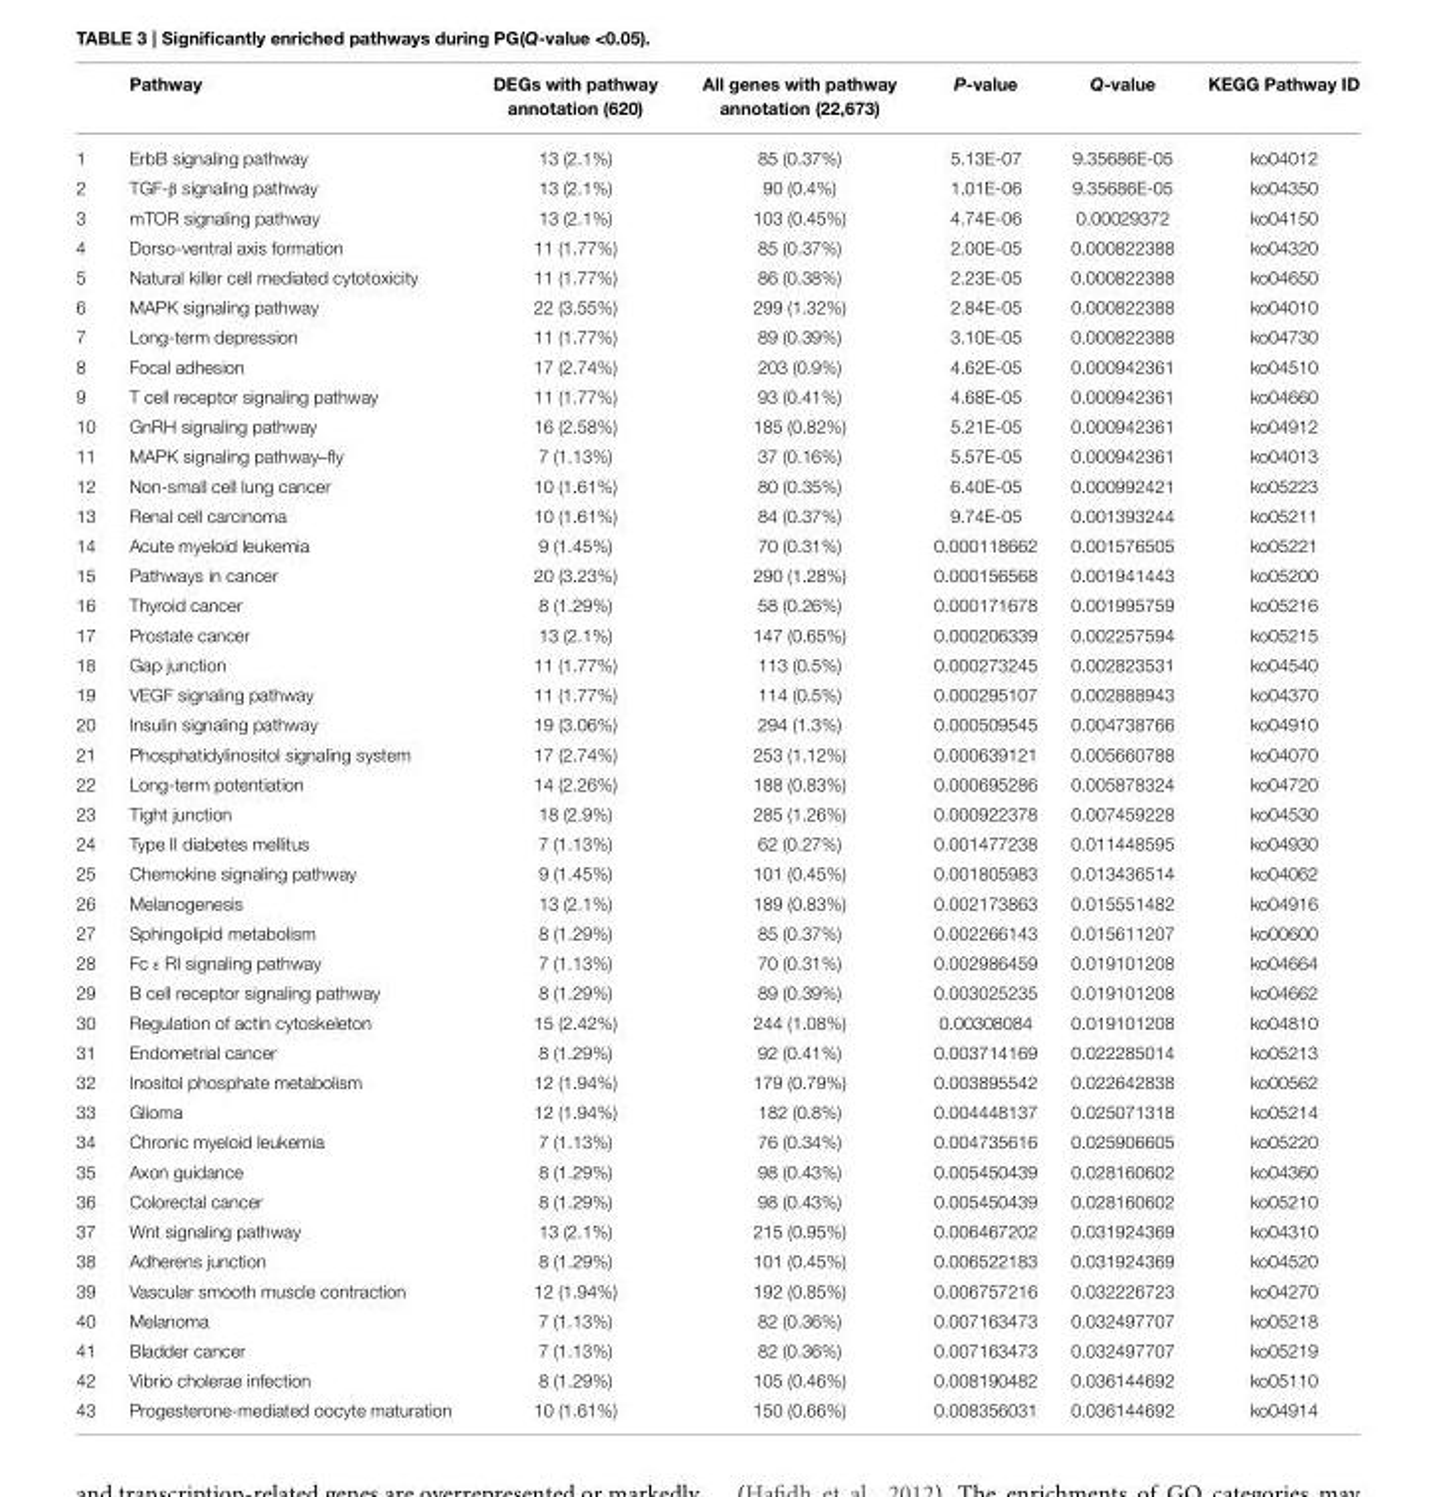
<table><thead><tr><td></td><td>Pathway</td><td>DEGs with pathway annotation (620)</td><td>All genes with pathway annotation (22,673)</td><td>P-value</td><td>Q-value</td><td>KEGG Pathway ID</td></tr></thead><tbody><tr><td>1</td><td>ErbB signaling pathway</td><td>13 (2.1%)</td><td>85 (0.37%)</td><td>5.13E-07</td><td>9.35686E-05</td><td>ko04012</td></tr><tr><td>2</td><td>TGF-β signaling pathway</td><td>13 (2.1%)</td><td>90 (0.4%)</td><td>1.01E-06</td><td>9.35686E-05</td><td>ko04350</td></tr><tr><td>3</td><td>mTOR signaling pathway</td><td>13 (2.1%)</td><td>103 (0.45%)</td><td>4.74E-06</td><td>0.00029372</td><td>ko04150</td></tr><tr><td>4</td><td>Dorso-ventral axis formation</td><td>11 (1.77%)</td><td>85 (0.37%)</td><td>2.00E-05</td><td>0.000822388</td><td>ko04320</td></tr><tr><td>5</td><td>Natural killer cell mediated cytotoxicity</td><td>11 (1.77%)</td><td>86 (0.38%)</td><td>2.23E-05</td><td>0.000822388</td><td>ko04650</td></tr><tr><td>6</td><td>MAPK signaling pathway</td><td>22 (3.55%)</td><td>299 (1.32%)</td><td>2.84E-05</td><td>0.000822388</td><td>ko04010</td></tr><tr><td>7</td><td>Long-term depression</td><td>11 (1.77%)</td><td>89 (0.39%)</td><td>3.10E-05</td><td>0.000822388</td><td>ko04730</td></tr><tr><td>8</td><td>Focal adhesion</td><td>17 (2.74%)</td><td>203 (0.9%)</td><td>4.62E-05</td><td>0.000942361</td><td>ko04510</td></tr><tr><td>9</td><td>T cell receptor signaling pathway</td><td>11 (1.77%)</td><td>93 (0.41%)</td><td>4.68E-05</td><td>0.000942361</td><td>ko04660</td></tr><tr><td>10</td><td>GnRH signaling pathway</td><td>16 (2.58%)</td><td>185 (0.82%)</td><td>5.21E-05</td><td>0.000942361</td><td>ko04912</td></tr><tr><td>11</td><td>MAPK signaling pathway–fly</td><td>7 (1.13%)</td><td>37 (0.16%)</td><td>5.57E-05</td><td>0.000942361</td><td>ko04013</td></tr><tr><td>12</td><td>Non-small cell lung cancer</td><td>10 (1.61%)</td><td>80 (0.35%)</td><td>6.40E-05</td><td>0.000992421</td><td>ko05223</td></tr><tr><td>13</td><td>Renal cell carcinoma</td><td>10 (1.61%)</td><td>84 (0.37%)</td><td>9.74E-05</td><td>0.001393244</td><td>ko05211</td></tr><tr><td>14</td><td>Acute myeloid leukemia</td><td>9 (1.45%)</td><td>70 (0.31%)</td><td>0.000118662</td><td>0.001576505</td><td>ko05221</td></tr><tr><td>15</td><td>Pathways in cancer</td><td>20 (3.23%)</td><td>290 (1.28%)</td><td>0.000156568</td><td>0.001941443</td><td>ko05200</td></tr><tr><td>16</td><td>Thyroid cancer</td><td>8 (1.29%)</td><td>58 (0.26%)</td><td>0.000171678</td><td>0.001995759</td><td>ko05216</td></tr><tr><td>17</td><td>Prostate cancer</td><td>13 (2.1%)</td><td>147 (0.65%)</td><td>0.000206339</td><td>0.002257594</td><td>ko05215</td></tr><tr><td>18</td><td>Gap junction</td><td>11 (1.77%)</td><td>113 (0.5%)</td><td>0.000273245</td><td>0.002823531</td><td>ko04540</td></tr><tr><td>19</td><td>VEGF signaling pathway</td><td>11 (1.77%)</td><td>114 (0.5%)</td><td>0.000295107</td><td>0.002888943</td><td>ko04370</td></tr><tr><td>20</td><td>Insulin signaling pathway</td><td>19 (3.06%)</td><td>294 (1.3%)</td><td>0.000509545</td><td>0.004738766</td><td>ko04910</td></tr><tr><td>21</td><td>Phosphatidylinositol signaling system</td><td>17 (2.74%)</td><td>253 (1.12%)</td><td>0.000639121</td><td>0.005660788</td><td>ko04070</td></tr><tr><td>22</td><td>Long-term potentiation</td><td>14 (2.26%)</td><td>188 (0.83%)</td><td>0.000695286</td><td>0.005878324</td><td>ko04720</td></tr><tr><td>23</td><td>Tight junction</td><td>18 (2.9%)</td><td>285 (1.26%)</td><td>0.000922378</td><td>0.007459228</td><td>ko04530</td></tr><tr><td>24</td><td>Type II diabetes mellitus</td><td>7 (1.13%)</td><td>62 (0.27%)</td><td>0.001477238</td><td>0.011448595</td><td>ko04930</td></tr><tr><td>25</td><td>Chemokine signaling pathway</td><td>9 (1.45%)</td><td>101 (0.45%)</td><td>0.001805983</td><td>0.013436514</td><td>ko04062</td></tr><tr><td>26</td><td>Melanogenesis</td><td>13 (2.1%)</td><td>189 (0.83%)</td><td>0.002173863</td><td>0.015551482</td><td>ko04916</td></tr><tr><td>27</td><td>Sphingolipid metabolism</td><td>8 (1.29%)</td><td>85 (0.37%)</td><td>0.002266143</td><td>0.015611207</td><td>ko00600</td></tr><tr><td>28</td><td>Fc ε RI signaling pathway</td><td>7 (1.13%)</td><td>70 (0.31%)</td><td>0.002986459</td><td>0.019101208</td><td>ko04664</td></tr><tr><td>29</td><td>B cell receptor signaling pathway</td><td>8 (1.29%)</td><td>89 (0.39%)</td><td>0.003025235</td><td>0.019101208</td><td>ko04662</td></tr><tr><td>30</td><td>Regulation of actin cytoskeleton</td><td>15 (2.42%)</td><td>244 (1.08%)</td><td>0.00308084</td><td>0.019101208</td><td>ko04810</td></tr><tr><td>31</td><td>Endometrial cancer</td><td>8 (1.29%)</td><td>92 (0.41%)</td><td>0.003714169</td><td>0.022285014</td><td>ko05213</td></tr><tr><td>32</td><td>Inositol phosphate metabolism</td><td>12 (1.94%)</td><td>179 (0.79%)</td><td>0.003895542</td><td>0.022642838</td><td>ko00562</td></tr><tr><td>33</td><td>Glioma</td><td>12 (1.94%)</td><td>182 (0.8%)</td><td>0.004448137</td><td>0.025071318</td><td>ko05214</td></tr><tr><td>34</td><td>Chronic myeloid leukemia</td><td>7 (1.13%)</td><td>76 (0.34%)</td><td>0.004735616</td><td>0.025906605</td><td>ko05220</td></tr><tr><td>35</td><td>Axon guidance</td><td>8 (1.29%)</td><td>98 (0.43%)</td><td>0.005450439</td><td>0.028160602</td><td>ko04360</td></tr><tr><td>36</td><td>Colorectal cancer</td><td>8 (1.29%)</td><td>98 (0.43%)</td><td>0.005450439</td><td>0.028160602</td><td>ko05210</td></tr><tr><td>37</td><td>Wnt signaling pathway</td><td>13 (2.1%)</td><td>215 (0.95%)</td><td>0.006467202</td><td>0.031924369</td><td>ko04310</td></tr><tr><td>38</td><td>Adherens junction</td><td>8 (1.29%)</td><td>101 (0.45%)</td><td>0.006522183</td><td>0.031924369</td><td>ko04520</td></tr><tr><td>39</td><td>Vascular smooth muscle contraction</td><td>12 (1.94%)</td><td>192 (0.85%)</td><td>0.006757216</td><td>0.032226723</td><td>ko04270</td></tr><tr><td>40</td><td>Melanoma</td><td>7 (1.13%)</td><td>82 (0.36%)</td><td>0.007163473</td><td>0.032497707</td><td>ko05218</td></tr><tr><td>41</td><td>Bladder cancer</td><td>7 (1.13%)</td><td>82 (0.36%)</td><td>0.007163473</td><td>0.032497707</td><td>ko05219</td></tr><tr><td>42</td><td>Vibrio cholerae infection</td><td>8 (1.29%)</td><td>105 (0.46%)</td><td>0.008190482</td><td>0.036144692</td><td>ko05110</td></tr><tr><td>43</td><td>Progesterone-mediated oocyte maturation</td><td>10 (1.61%)</td><td>150 (0.66%)</td><td>0.008356031</td><td>0.036144692</td><td>ko04914</td></tr></tbody></table>